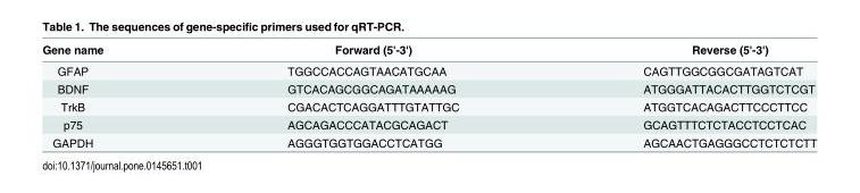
<table><thead><tr><td>Gene name</td><td>Forward (5&#x27;-3&#x27;)</td><td>Reverse (5&#x27;-3&#x27;)</td></tr></thead><tbody><tr><td>GFAP</td><td>TGGCCACCAGTAACATGCAA</td><td>CAGTTGGCGGCGATAGTCAT</td></tr><tr><td>BDNF</td><td>GTCACAGCGGCAGATAAAAAG</td><td>ATGGGATTACACTTGGTCTCGT</td></tr><tr><td>TrkB</td><td>CGACACTCAGGATTTGTATTGC</td><td>ATGGTCACAGACTTCCCTTCC</td></tr><tr><td>p75</td><td>AGCAGACCCATACGCAGACT</td><td>GCAGTTTCTCTACCTCCTCAC</td></tr><tr><td>GAPDH</td><td>AGGGTGGTGGACCTCATGG</td><td>AGCAACTGAGGGCCTCTCTCTT</td></tr></tbody></table>